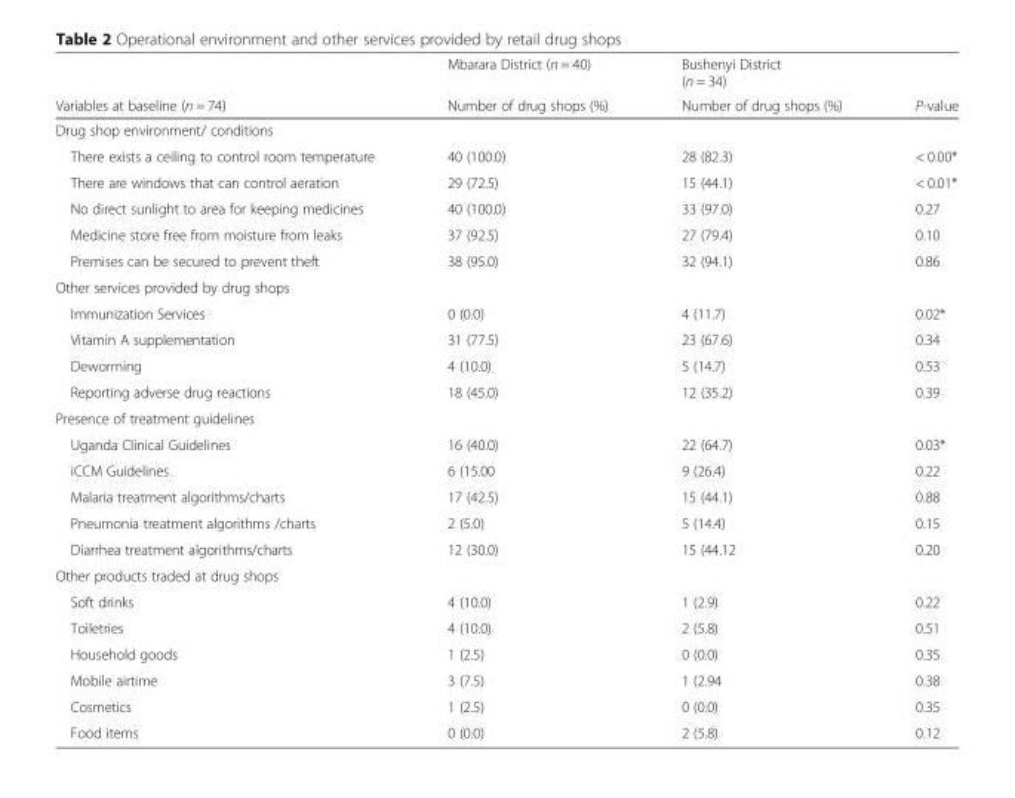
<table><thead><tr><td rowspan="2">Variables at baseline (n = 74)</td><td rowspan="2">Mbarara District (n = 40) Number of drug shops (%)</td><td rowspan="2">Bushenyi District (n = 34) Number of drug shops (%)</td><td rowspan="2">P-value</td></tr><tr></tr></thead><tbody><tr><td colspan="4">Drug shop environment/ conditions</td></tr><tr><td>There exists a ceiling to control room temperature</td><td>40 (100.0)</td><td>28 (82.3)</td><td>&lt; 0.00*</td></tr><tr><td>There are windows that can control aeration</td><td>29 (72.5)</td><td>15 (44.1)</td><td>&lt; 0.01*</td></tr><tr><td>No direct sunlight to area for keeping medicines</td><td>40 (100.0)</td><td>33 (97.0)</td><td>0.27</td></tr><tr><td>Medicine store free from moisture from leaks</td><td>37 (92.5)</td><td>27 (79.4)</td><td>0.10</td></tr><tr><td>Premises can be secured to prevent theft</td><td>38 (95.0)</td><td>32 (94.1)</td><td>0.86</td></tr><tr><td colspan="4">Other services provided by drug shops</td></tr><tr><td>Immunization Services</td><td>0 (0.0)</td><td>4 (11.7)</td><td>0.02*</td></tr><tr><td>Vitamin A supplementation</td><td>31 (77.5)</td><td>23 (67.6)</td><td>0.34</td></tr><tr><td>Deworming</td><td>4 (10.0)</td><td>5 (14.7)</td><td>0.53</td></tr><tr><td>Reporting adverse drug reactions</td><td>18 (45.0)</td><td>12 (35.2)</td><td>0.39</td></tr><tr><td colspan="4">Presence of treatment guidelines</td></tr><tr><td>Uganda Clinical Guidelines</td><td>16 (40.0)</td><td>22 (64.7)</td><td>0.03*</td></tr><tr><td>iCCM Guidelines</td><td>6 (15.00</td><td>9 (26.4)</td><td>0.22</td></tr><tr><td>Malaria treatment algorithms/charts</td><td>17 (42.5)</td><td>15 (44.1)</td><td>0.88</td></tr><tr><td>Pneumonia treatment algorithms /charts</td><td>2 (5.0)</td><td>5 (14.4)</td><td>0.15</td></tr><tr><td>Diarrhea treatment algorithms/charts</td><td>12 (30.0)</td><td>15 (44.12</td><td>0.20</td></tr><tr><td colspan="4">Other products traded at drug shops</td></tr><tr><td>Soft drinks</td><td>4 (10.0)</td><td>1 (2.9)</td><td>0.22</td></tr><tr><td>Toiletries</td><td>4 (10.0)</td><td>2 (5.8)</td><td>0.51</td></tr><tr><td>Household goods</td><td>1 (2.5)</td><td>0 (0.0)</td><td>0.35</td></tr><tr><td>Mobile airtime</td><td>3 (7.5)</td><td>1 (2.94</td><td>0.38</td></tr><tr><td>Cosmetics</td><td>1 (2.5)</td><td>0 (0.0)</td><td>0.35</td></tr><tr><td>Food items</td><td>0 (0.0)</td><td>2 (5.8)</td><td>0.12</td></tr></tbody></table>